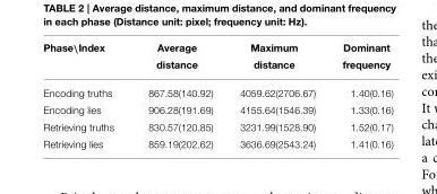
<table><thead><tr><td>Phase\Index</td><td>Average distance</td><td>Maximum distance</td><td>Dominant frequency</td></tr></thead><tbody><tr><td>Encoding truths</td><td>867.58(140.92)</td><td>4059.62(2706.67)</td><td>1.40(0.16)</td></tr><tr><td>Encoding lies</td><td>906.28(191.69)</td><td>4155.64(1546.39)</td><td>1.33(0.16)</td></tr><tr><td>Retrieving truths</td><td>830.57(120.85)</td><td>3231.99(1528.90)</td><td>1.52(0.17)</td></tr><tr><td>Retrieving lies</td><td>859.19(202.62)</td><td>3636.69(2543.24)</td><td>1.41(0.16)</td></tr></tbody></table>